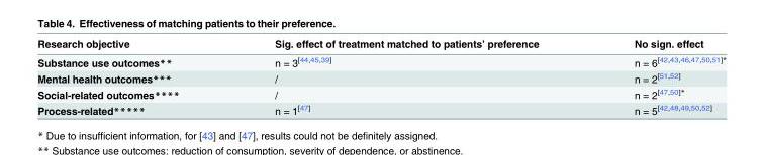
<table><thead><tr><td>Research objective</td><td>Sig. effect of treatment matched to patients’ preference</td><td>No sign. effect</td></tr></thead><tbody><tr><td>Substance use outcomes**</td><td>n = 3<sup>[44,45,39]</sup></td><td>n = 6<sup>[42,43,46,47,50,51]*</sup></td></tr><tr><td>Mental health outcomes***</td><td>/</td><td>n = 2<sup>[51,52]</sup></td></tr><tr><td>Social-related outcomes****</td><td>/</td><td>n = 2<sup>[47,50]*</sup></td></tr><tr><td>Process-related*****</td><td>n = 1<sup>[47]</sup></td><td>n = 5<sup>[42,48,49,50,52]</sup></td></tr></tbody></table>